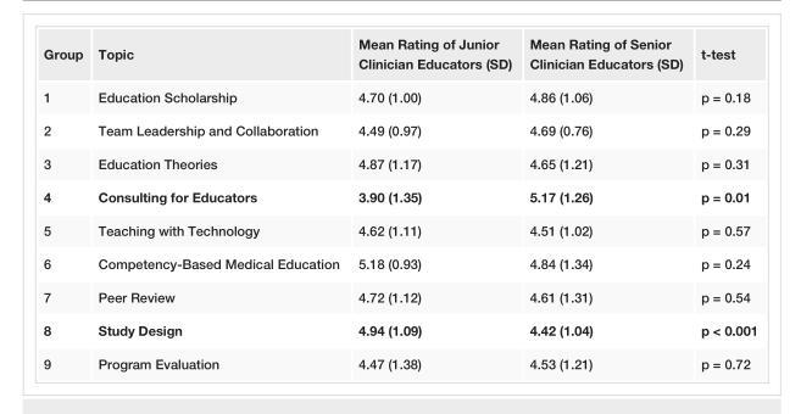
<table><tbody><tr><td>Group</td><td>Topic</td><td>Mean Rating of Junior Clinician Educators (SD)</td><td>Mean Rating of Senior Clinician Educators (SD)</td><td>t-test</td></tr><tr><td>1</td><td>Education Scholarship</td><td>4.70 (1.00)</td><td>4.86 (1.06)</td><td>p = 0.18</td></tr><tr><td>2</td><td>Team Leadership and Collaboration</td><td>4.49 (0.97)</td><td>4.69 (0.76)</td><td>p = 0.29</td></tr><tr><td>3</td><td>Education Theories</td><td>4.87 (1.17)</td><td>4.65 (1.21)</td><td>p = 0.31</td></tr><tr><td>4</td><td>Consulting for Educators</td><td>3.90 (1.35)</td><td>5.17 (1.26)</td><td>p = 0.01</td></tr><tr><td>5</td><td>Teaching with Technology</td><td>4.62 (1.11)</td><td>4.51 (1.02)</td><td>p = 0.57</td></tr><tr><td>6</td><td>Competency-Based Medical Education</td><td>5.18 (0.93)</td><td>4.84 (1.34)</td><td>p = 0.24</td></tr><tr><td>7</td><td>Peer Review</td><td>4.72 (1.12)</td><td>4.61 (1.31)</td><td>p = 0.54</td></tr><tr><td>8</td><td>Study Design</td><td>4.94 (1.09)</td><td>4.42 (1.04)</td><td>p &lt; 0.001</td></tr><tr><td>9</td><td>Program Evaluation</td><td>4.47 (1.38)</td><td>4.53 (1.21)</td><td>p = 0.72</td></tr></tbody></table>